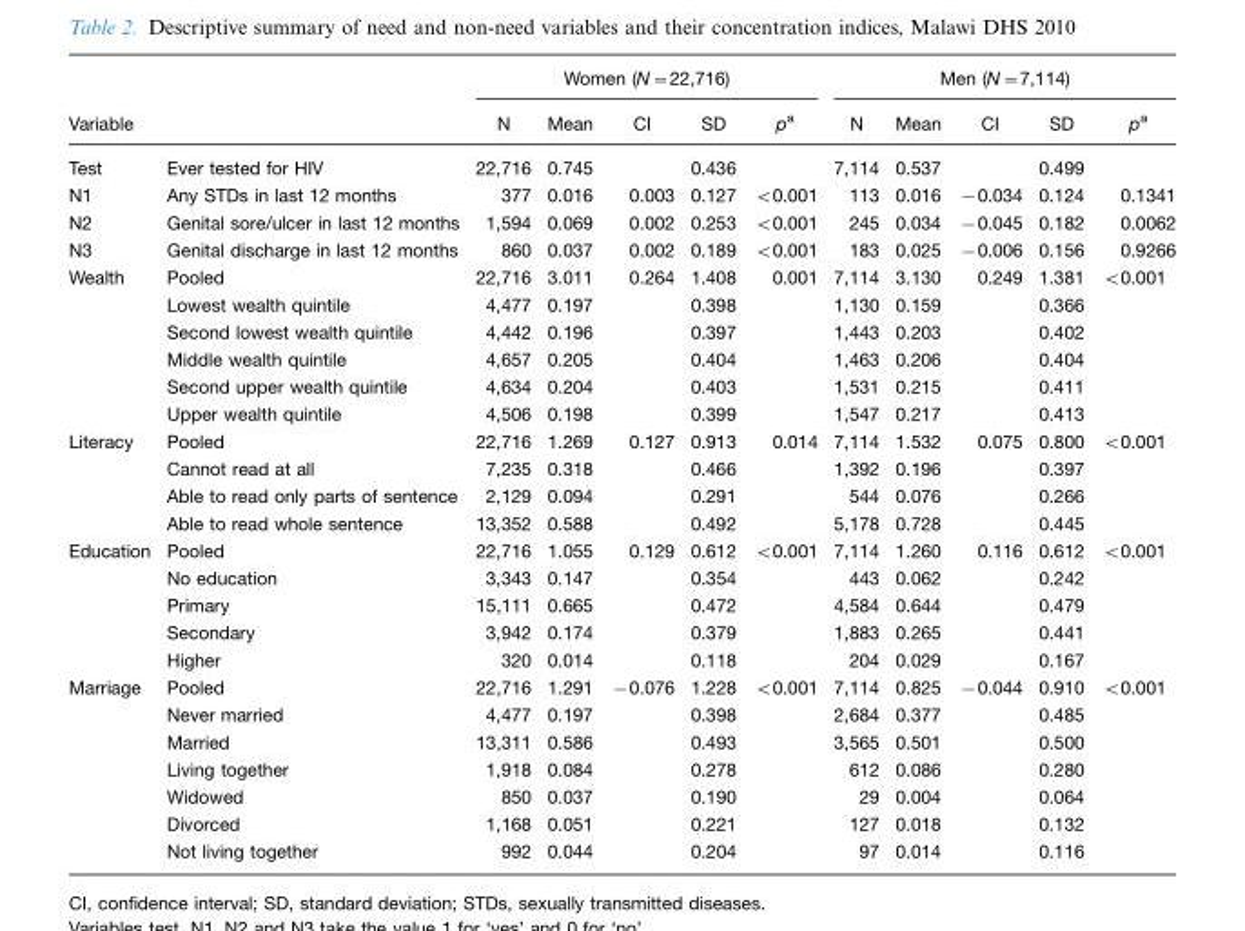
<table><thead><tr><td rowspan="2">Variable</td><td rowspan="2"></td><td colspan="5">Women (N=22,716)</td><td colspan="5">Men (N=7,114)</td></tr><tr><td>N</td><td>Mean</td><td>CI</td><td>SD</td><td>p<sup>a</sup></td><td>N</td><td>Mean</td><td>CI</td><td>SD</td><td>p<sup>a</sup></td></tr></thead><tbody><tr><td>Test</td><td>Ever tested for HIV</td><td>22,716</td><td>0.745</td><td></td><td>0.436</td><td></td><td>7,114</td><td>0.537</td><td></td><td>0.499</td><td></td></tr><tr><td>N1</td><td>Any STDs in last 12 months</td><td>377</td><td>0.016</td><td>0.003</td><td>0.127</td><td>&lt;0.001</td><td>113</td><td>0.016</td><td>−0.034</td><td>0.124</td><td>0.1341</td></tr><tr><td>N2</td><td>Genital sore/ulcer in last 12 months</td><td>1,594</td><td>0.069</td><td>0.002</td><td>0.253</td><td>&lt;0.001</td><td>245</td><td>0.034</td><td>−0.045</td><td>0.182</td><td>0.0062</td></tr><tr><td>N3</td><td>Genital discharge in last 12 months</td><td>860</td><td>0.037</td><td>0.002</td><td>0.189</td><td>&lt;0.001</td><td>183</td><td>0.025</td><td>−0.006</td><td>0.156</td><td>0.9266</td></tr><tr><td rowspan="6">Wealth</td><td>Pooled</td><td>22,716</td><td>3.011</td><td>0.264</td><td>1.408</td><td>0.001</td><td>7,114</td><td>3.130</td><td>0.249</td><td>1.381</td><td>&lt;0.001</td></tr><tr><td>Lowest wealth quintile</td><td>4,477</td><td>0.197</td><td></td><td>0.398</td><td></td><td>1,130</td><td>0.159</td><td></td><td>0.366</td><td></td></tr><tr><td>Second lowest wealth quintile</td><td>4,442</td><td>0.196</td><td></td><td>0.397</td><td></td><td>1,443</td><td>0.203</td><td></td><td>0.402</td><td></td></tr><tr><td>Middle wealth quintile</td><td>4,657</td><td>0.205</td><td></td><td>0.404</td><td></td><td>1,463</td><td>0.206</td><td></td><td>0.404</td><td></td></tr><tr><td>Second upper wealth quintile</td><td>4,634</td><td>0.204</td><td></td><td>0.403</td><td></td><td>1,531</td><td>0.215</td><td></td><td>0.411</td><td></td></tr><tr><td>Upper wealth quintile</td><td>4,506</td><td>0.198</td><td></td><td>0.399</td><td></td><td>1,547</td><td>0.217</td><td></td><td>0.413</td><td></td></tr><tr><td rowspan="4">Literacy</td><td>Pooled</td><td>22,716</td><td>1.269</td><td>0.127</td><td>0.913</td><td>0.014</td><td>7,114</td><td>1.532</td><td>0.075</td><td>0.800</td><td>&lt;0.001</td></tr><tr><td>Cannot read at all</td><td>7,235</td><td>0.318</td><td></td><td>0.466</td><td></td><td>1,392</td><td>0.196</td><td></td><td>0.397</td><td></td></tr><tr><td>Able to read only parts of sentence</td><td>2,129</td><td>0.094</td><td></td><td>0.291</td><td></td><td>544</td><td>0.076</td><td></td><td>0.266</td><td></td></tr><tr><td>Able to read whole sentence</td><td>13,352</td><td>0.588</td><td></td><td>0.492</td><td></td><td>5,178</td><td>0.728</td><td></td><td>0.445</td><td></td></tr><tr><td rowspan="5">Education</td><td>Pooled</td><td>22,716</td><td>1.055</td><td>0.129</td><td>0.612</td><td>&lt;0.001</td><td>7,114</td><td>1.260</td><td>0.116</td><td>0.612</td><td>&lt;0.001</td></tr><tr><td>No education</td><td>3,343</td><td>0.147</td><td></td><td>0.354</td><td></td><td>443</td><td>0.062</td><td></td><td>0.242</td><td></td></tr><tr><td>Primary</td><td>15,111</td><td>0.665</td><td></td><td>0.472</td><td></td><td>4,584</td><td>0.644</td><td></td><td>0.479</td><td></td></tr><tr><td>Secondary</td><td>3,942</td><td>0.174</td><td></td><td>0.379</td><td></td><td>1,883</td><td>0.265</td><td></td><td>0.441</td><td></td></tr><tr><td>Higher</td><td>320</td><td>0.014</td><td></td><td>0.118</td><td></td><td>204</td><td>0.029</td><td></td><td>0.167</td><td></td></tr><tr><td rowspan="7">Marriage</td><td>Pooled</td><td>22,716</td><td>1.291</td><td>−0.076</td><td>1.228</td><td>&lt;0.001</td><td>7,114</td><td>0.825</td><td>−0.044</td><td>0.910</td><td>&lt;0.001</td></tr><tr><td>Never married</td><td>4,477</td><td>0.197</td><td></td><td>0.398</td><td></td><td>2,684</td><td>0.377</td><td></td><td>0.485</td><td></td></tr><tr><td>Married</td><td>13,311</td><td>0.586</td><td></td><td>0.493</td><td></td><td>3,565</td><td>0.501</td><td></td><td>0.500</td><td></td></tr><tr><td>Living together</td><td>1,918</td><td>0.084</td><td></td><td>0.278</td><td></td><td>612</td><td>0.086</td><td></td><td>0.280</td><td></td></tr><tr><td>Widowed</td><td>850</td><td>0.037</td><td></td><td>0.190</td><td></td><td>29</td><td>0.004</td><td></td><td>0.064</td><td></td></tr><tr><td>Divorced</td><td>1,168</td><td>0.051</td><td></td><td>0.221</td><td></td><td>127</td><td>0.018</td><td></td><td>0.132</td><td></td></tr><tr><td>Not living together</td><td>992</td><td>0.044</td><td></td><td>0.204</td><td></td><td>97</td><td>0.014</td><td></td><td>0.116</td><td></td></tr></tbody></table>